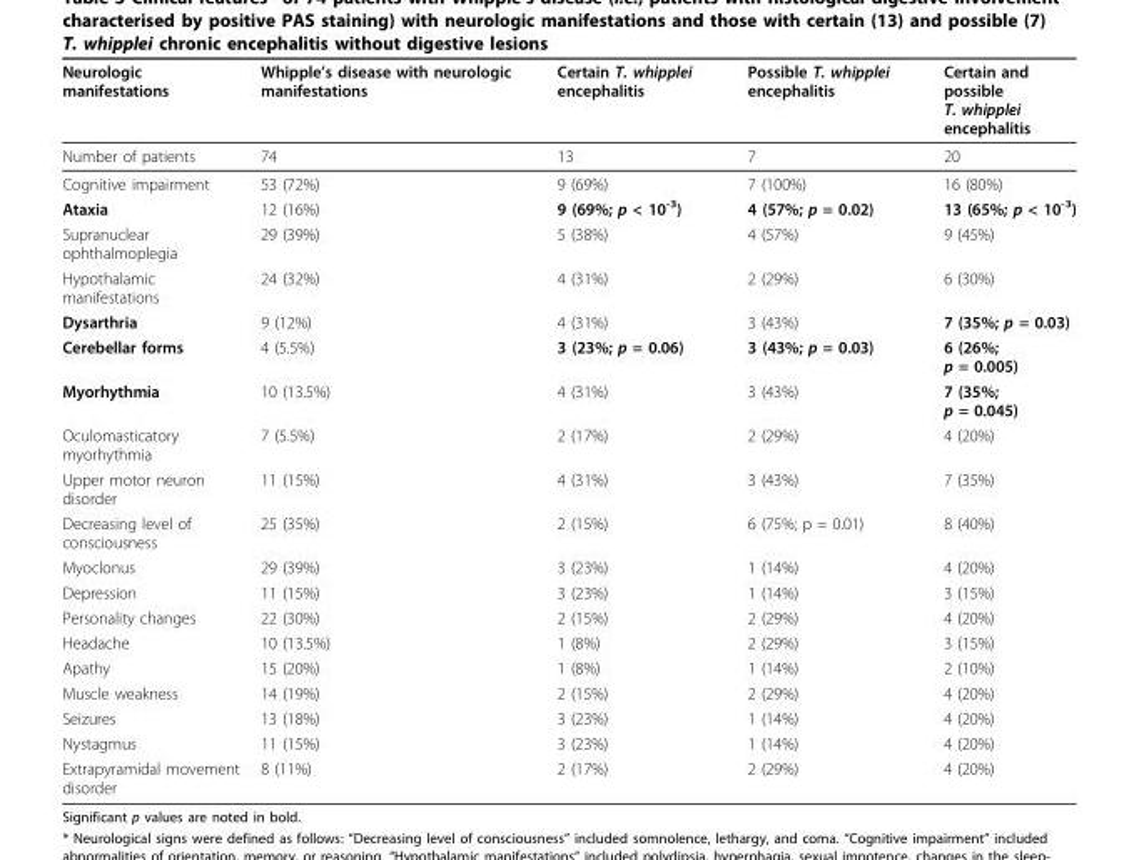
<table><thead><tr><td>Neurologic manifestations</td><td>Whipple’s disease with neurologic manifestations</td><td>Certain T. whipplei encephalitis</td><td>Possible T. whipplei encephalitis</td><td>Certain and possible T. whipplei encephalitis</td></tr></thead><tbody><tr><td>Number of patients</td><td>74</td><td>13</td><td>7</td><td>20</td></tr><tr><td>Cognitive impairment</td><td>53 (72%)</td><td>9 (69%)</td><td>7 (100%)</td><td>16 (80%)</td></tr><tr><td>Ataxia</td><td>12 (16%)</td><td>9 (69%; p &lt; 10<sup>-3</sup>)</td><td>4 (57%; p = 0.02)</td><td>13 (65%; p &lt; 10<sup>-3</sup>)</td></tr><tr><td>Supranuclear ophthalmoplegia</td><td>29 (39%)</td><td>5 (38%)</td><td>4 (57%)</td><td>9 (45%)</td></tr><tr><td>Hypothalamic manifestations</td><td>24 (32%)</td><td>4 (31%)</td><td>2 (29%)</td><td>6 (30%)</td></tr><tr><td>Dysarthria</td><td>9 (12%)</td><td>4 (31%)</td><td>3 (43%)</td><td>7 (35%; p = 0.03)</td></tr><tr><td>Cerebellar forms</td><td>4 (5.5%)</td><td>3 (23%; p = 0.06)</td><td>3 (43%; p = 0.03)</td><td>6 (26%; p = 0.005)</td></tr><tr><td>Myorhythmia</td><td>10 (13.5%)</td><td>4 (31%)</td><td>3 (43%)</td><td>7 (35%; p = 0.045)</td></tr><tr><td>Oculomasticatory myorhythmia</td><td>7 (5.5%)</td><td>2 (17%)</td><td>2 (29%)</td><td>4 (20%)</td></tr><tr><td>Upper motor neuron disorder</td><td>11 (15%)</td><td>4 (31%)</td><td>3 (43%)</td><td>7 (35%)</td></tr><tr><td>Decreasing level of consciousness</td><td>25 (35%)</td><td>2 (15%)</td><td>6 (75%; p = 0.01)</td><td>8 (40%)</td></tr><tr><td>Myoclonus</td><td>29 (39%)</td><td>3 (23%)</td><td>1 (14%)</td><td>4 (20%)</td></tr><tr><td>Depression</td><td>11 (15%)</td><td>3 (23%)</td><td>1 (14%)</td><td>3 (15%)</td></tr><tr><td>Personality changes</td><td>22 (30%)</td><td>2 (15%)</td><td>2 (29%)</td><td>4 (20%)</td></tr><tr><td>Headache</td><td>10 (13.5%)</td><td>1 (8%)</td><td>2 (29%)</td><td>3 (15%)</td></tr><tr><td>Apathy</td><td>15 (20%)</td><td>1 (8%)</td><td>1 (14%)</td><td>2 (10%)</td></tr><tr><td>Muscle weakness</td><td>14 (19%)</td><td>2 (15%)</td><td>2 (29%)</td><td>4 (20%)</td></tr><tr><td>Seizures</td><td>13 (18%)</td><td>3 (23%)</td><td>1 (14%)</td><td>4 (20%)</td></tr><tr><td>Nystagmus</td><td>11 (15%)</td><td>3 (23%)</td><td>1 (14%)</td><td>4 (20%)</td></tr><tr><td>Extrapyramidal movement disorder</td><td>8 (11%)</td><td>2 (17%)</td><td>2 (29%)</td><td>4 (20%)</td></tr></tbody></table>